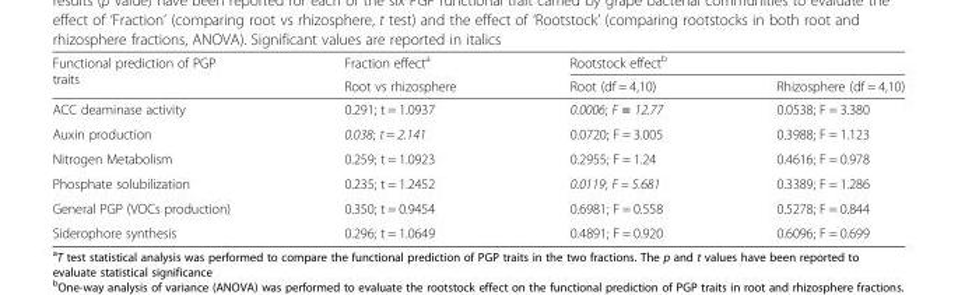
<table><thead><tr><td rowspan="2">Functional prediction of PGP traits</td><td rowspan="2">Fraction effect<sup>a</sup> Root vs rhizosphere</td><td colspan="2">Rootstock effect<sup>b</sup></td></tr><tr><td>Root (df = 4,10)</td><td>Rhizosphere (df = 4,10)</td></tr></thead><tbody><tr><td>ACC deaminase activity</td><td>0.291; t = 1.0937</td><td>0.0006; F = 12.77</td><td>0.0538; F = 3.380</td></tr><tr><td>Auxin production</td><td>0.038; t = 2.141</td><td>0.0720; F = 3.005</td><td>0.3988; F = 1.123</td></tr><tr><td>Nitrogen Metabolism</td><td>0.259; t = 1.0923</td><td>0.2955; F = 1.24</td><td>0.4616; F = 0.978</td></tr><tr><td>Phosphate solubilization</td><td>0.235; t = 1.2452</td><td>0.0119; F = 5.681</td><td>0.3389; F = 1.286</td></tr><tr><td>General PGP (VOCs production)</td><td>0.350; t = 0.9454</td><td>0.6981; F = 0.558</td><td>0.5278; F = 0.844</td></tr><tr><td>Siderophore synthesis</td><td>0.296; t = 1.0649</td><td>0.4891; F = 0.920</td><td>0.6096; F = 0.699</td></tr></tbody></table>